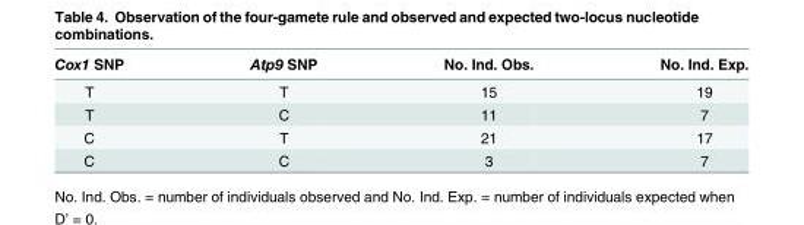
<table><thead><tr><td>Cox1 SNP</td><td>Atp9 SNP</td><td>No. Ind. Obs.</td><td>No. Ind. Exp.</td></tr></thead><tbody><tr><td>T</td><td>T</td><td>15</td><td>19</td></tr><tr><td>T</td><td>C</td><td>11</td><td>7</td></tr><tr><td>C</td><td>T</td><td>21</td><td>17</td></tr><tr><td>C</td><td>C</td><td>3</td><td>7</td></tr></tbody></table>